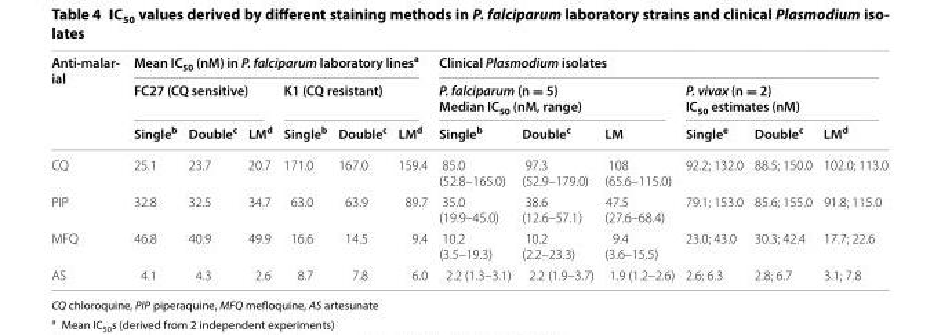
<table><thead><tr><td rowspan="3">Anti‑malar‑ ial</td><td colspan="6">Mean IC<sub>50</sub> (nM) in P. falciparum laboratory lines<sup>a</sup></td><td colspan="6">Clinical Plasmodium isolates</td></tr><tr><td colspan="3">FC27 (CQ sensitive)</td><td colspan="3">K1 (CQ resistant)</td><td colspan="3">P. falciparum (n = 5) Median IC<sub>50</sub> (nM, range)</td><td colspan="3">P. vivax (n = 2) IC<sub>50</sub> estimates (nM)</td></tr><tr><td>Single<sup>b</sup></td><td>Double<sup>c</sup></td><td>LM<sup>d</sup></td><td>Single<sup>b</sup></td><td>Double<sup>c</sup></td><td>LM<sup>d</sup></td><td>Single<sup>b</sup></td><td>Double<sup>c</sup></td><td>LM</td><td>Single<sup>e</sup></td><td>Double<sup>c</sup></td><td>LM<sup>d</sup></td></tr></thead><tbody><tr><td>CQ</td><td>25.1</td><td>23.7</td><td>20.7</td><td>171.0</td><td>167.0</td><td>159.4</td><td>85.0 (52.8–165.0)</td><td>97.3 (52.9–179.0)</td><td>108 (65.6–115.0)</td><td>92.2; 132.0</td><td>88.5; 150.0</td><td>102.0; 113.0</td></tr><tr><td>PIP</td><td>32.8</td><td>32.5</td><td>34.7</td><td>63.0</td><td>63.9</td><td>89.7</td><td>35.0 (19.9–45.0)</td><td>38.6 (12.6–57.1)</td><td>47.5 (27.6–68.4)</td><td>79.1; 153.0</td><td>85.6; 155.0</td><td>91.8; 115.0</td></tr><tr><td>MFQ</td><td>46.8</td><td>40.9</td><td>49.9</td><td>16.6</td><td>14.5</td><td>9.4</td><td>10.2 (3.5–19.3)</td><td>10.2 (2.2–23.3)</td><td>9.4 (3.6–15.5)</td><td>23.0; 43.0</td><td>30.3; 42.4</td><td>17.7; 22.6</td></tr><tr><td>AS</td><td>4.1</td><td>4.3</td><td>2.6</td><td>8.7</td><td>7.8</td><td>6.0</td><td>2.2 (1.3–3.1)</td><td>2.2 (1.9–3.7)</td><td>1.9 (1.2–2.6)</td><td>2.6; 6.3</td><td>2.8; 6.7</td><td>3.1; 7.8</td></tr></tbody></table>